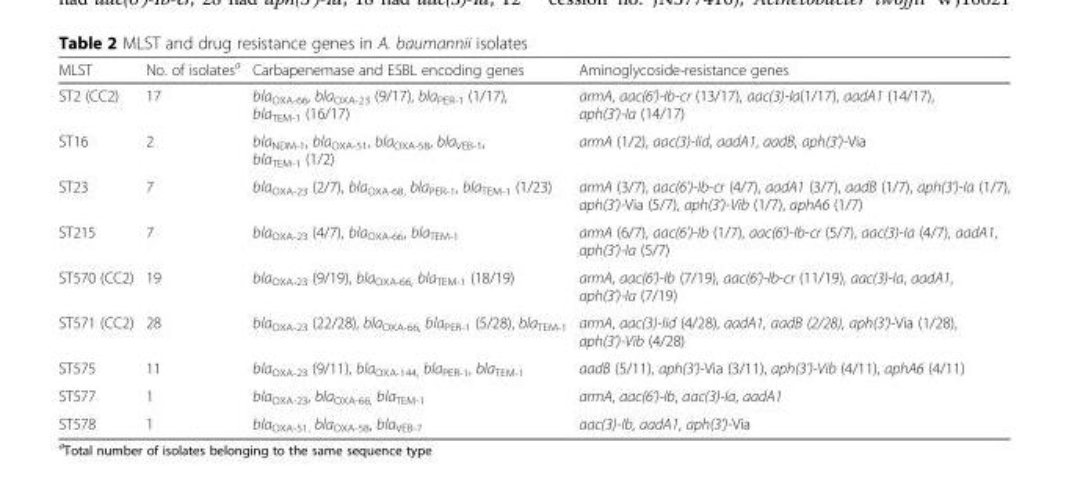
<table><thead><tr><td>MLST</td><td>No. of isolates<sup>a</sup></td><td>Carbapenemase and ESBL encoding genes</td><td>Aminoglycoside-resistance genes</td></tr></thead><tbody><tr><td>ST2 (CC2)</td><td>17</td><td>bla<sub>OXA-66</sub>, bla<sub>OXA-23</sub> (9/17), bla<sub>PER-1</sub> (1/17), bla<sub>TEM-1</sub> (16/17)</td><td>armA, aac(6’)-Ib-cr (13/17), aac(3)-Ia(1/17), aadA1 (14/17), aph(3’)-Ia (14/17)</td></tr><tr><td>ST16</td><td>2</td><td>bla<sub>NDM-1</sub>, bla<sub>OXA-51</sub>, bla<sub>OXA-58</sub>, bla<sub>VEB-1</sub>, bla<sub>TEM-1</sub> (1/2)</td><td>armA (1/2), aac(3)-Iid, aadA1, aadB, aph(3’)-Via</td></tr><tr><td>ST23</td><td>7</td><td>bla<sub>OXA-23</sub> (2/7), bla<sub>OXA-68,</sub> bla<sub>PER-1</sub>, bla<sub>TEM-1</sub> (1/23)</td><td>armA (3/7), aac(6’)-Ib-cr (4/7), aadA1 (3/7), aadB (1/7), aph(3’)-Ia (1/7), aph(3’)-Via (5/7), aph(3’)-Vib (1/7), aphA6 (1/7)</td></tr><tr><td>ST215</td><td>7</td><td>bla<sub>OXA-23</sub> (4/7), bla<sub>OXA-66</sub>, bla<sub>TEM-1</sub></td><td>armA (6/7), aac(6’)-Ib (1/7), aac(6’)-Ib-cr (5/7), aac(3)-Ia (4/7), aadA1, aph(3’)-Ia (5/7)</td></tr><tr><td>ST570 (CC2)</td><td>19</td><td>bla<sub>OXA-23</sub> (9/19), bla<sub>OXA-66,</sub> bla<sub>TEM-1</sub> (18/19)</td><td>armA, aac(6’)-Ib (7/19), aac(6’)-Ib-cr (11/19), aac(3)-Ia, aadA1, aph(3’)-Ia (7/19)</td></tr><tr><td>ST571 (CC2)</td><td>28</td><td>bla<sub>OXA-23</sub> (22/28), bla<sub>OXA-66,</sub> bla<sub>PER-1</sub> (5/28), bla<sub>TEM-1</sub></td><td>armA, aac(3)-Iid (4/28), aadA1, aadB (2/28), aph(3’)-Via (1/28), aph(3’)-Vib (4/28)</td></tr><tr><td>ST575</td><td>11</td><td>bla<sub>OXA-23</sub> (9/11), bla<sub>OXA-144,</sub> bla<sub>PER-1</sub>, bla<sub>TEM-1</sub></td><td>aadB (5/11), aph(3’)-Via (3/11), aph(3’)-Vib (4/11), aphA6 (4/11)</td></tr><tr><td>ST577</td><td>1</td><td>bla<sub>OXA-23</sub>, bla<sub>OXA-66,</sub> bla<sub>TEM-1</sub></td><td>armA, aac(6’)-Ib, aac(3)-Ia, aadA1</td></tr><tr><td>ST578</td><td>1</td><td>bla<sub>OXA-51,</sub> bla<sub>OXA-58</sub>, bla<sub>VEB-7</sub></td><td>aac(3)-Ib, aadA1, aph(3’)-Via</td></tr></tbody></table>